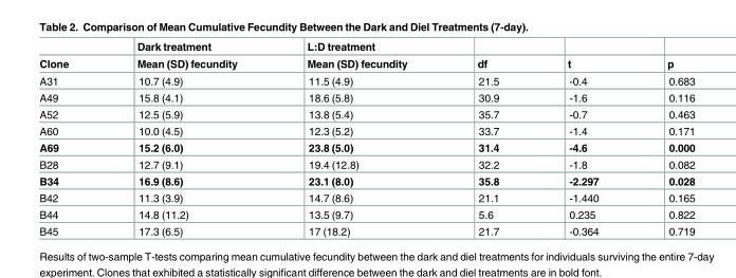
<table><thead><tr><td rowspan="2">Clone</td><td rowspan="2">Dark treatment Mean (SD) fecundity</td><td rowspan="2">L:D treatment Mean (SD) fecundity</td><td rowspan="2">df</td><td rowspan="2">t</td><td rowspan="2">p</td></tr><tr></tr></thead><tbody><tr><td>A31</td><td>10.7 (4.9)</td><td>11.5 (4.9)</td><td>21.5</td><td>-0.4</td><td>0.683</td></tr><tr><td>A49</td><td>15.8 (4.1)</td><td>18.6 (5.8)</td><td>30.9</td><td>-1.6</td><td>0.116</td></tr><tr><td>A52</td><td>12.5 (5.9)</td><td>13.8 (5.4)</td><td>35.7</td><td>-0.7</td><td>0.463</td></tr><tr><td>A60</td><td>10.0 (4.5)</td><td>12.3 (5.2)</td><td>33.7</td><td>-1.4</td><td>0.171</td></tr><tr><td>A69</td><td>15.2 (6.0)</td><td>23.8 (5.0)</td><td>31.4</td><td>-4.6</td><td>0.000</td></tr><tr><td>B28</td><td>12.7 (9.1)</td><td>19.4 (12.8)</td><td>32.2</td><td>-1.8</td><td>0.082</td></tr><tr><td>B34</td><td>16.9 (8.6)</td><td>23.1 (8.0)</td><td>35.8</td><td>-2.297</td><td>0.028</td></tr><tr><td>B42</td><td>11.3 (3.9)</td><td>14.7 (8.6)</td><td>21.1</td><td>-1.440</td><td>0.165</td></tr><tr><td>B44</td><td>14.8 (11.2)</td><td>13.5 (9.7)</td><td>5.6</td><td>0.235</td><td>0.822</td></tr><tr><td>B45</td><td>17.3 (6.5)</td><td>17 (18.2)</td><td>21.7</td><td>-0.364</td><td>0.719</td></tr></tbody></table>